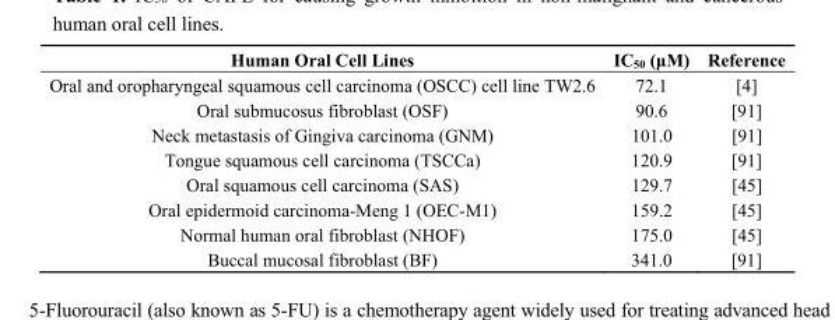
<table><thead><tr><td>Human Oral Cell Lines</td><td>IC<sub>50</sub> (μM)</td><td>Reference</td></tr></thead><tbody><tr><td>Oral and oropharyngeal squamous cell carcinoma (OSCC) cell line TW2.6</td><td>72.1</td><td>[4]</td></tr><tr><td>Oral submucosus fibroblast (OSF)</td><td>90.6</td><td>[91]</td></tr><tr><td>Neck metastasis of Gingiva carcinoma (GNM)</td><td>101.0</td><td>[91]</td></tr><tr><td>Tongue squamous cell carcinoma (TSCCa)</td><td>120.9</td><td>[91]</td></tr><tr><td>Oral squamous cell carcinoma (SAS)</td><td>129.7</td><td>[45]</td></tr><tr><td>Oral epidermoid carcinoma-Meng 1 (OEC-M1)</td><td>159.2</td><td>[45]</td></tr><tr><td>Normal human oral fibroblast (NHOF)</td><td>175.0</td><td>[45]</td></tr><tr><td>Buccal mucosal fibroblast (BF)</td><td>341.0</td><td>[91]</td></tr></tbody></table>